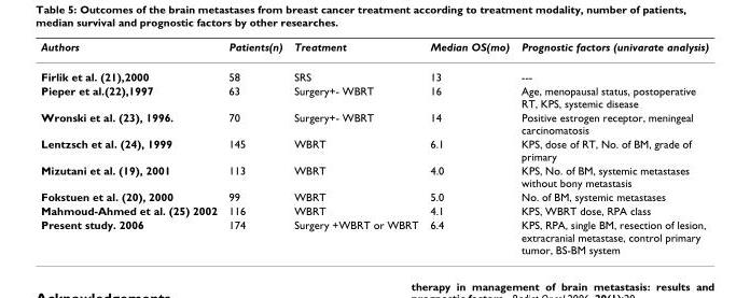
<table><thead><tr><td>Authors</td><td>Patients(n)</td><td>Treatment</td><td>Median OS(mo)</td><td>Prognostic factors (univarate analysis)</td></tr></thead><tbody><tr><td>Firlik et al. (21),2000</td><td>58</td><td>SRS</td><td>13</td><td>---</td></tr><tr><td>Pieper et al.(22),1997</td><td>63</td><td>Surgery+- WBRT</td><td>16</td><td>Age, menopausal status, postoperative RT, KPS, systemic disease</td></tr><tr><td>Wronski et al. (23), 1996.</td><td>70</td><td>Surgery+- WBRT</td><td>14</td><td>Positive estrogen receptor, meningeal carcinomatosis</td></tr><tr><td>Lentzsch et al. (24), 1999</td><td>145</td><td>WBRT</td><td>6.1</td><td>KPS, dose of RT, No. of BM, grade of primary</td></tr><tr><td>Mizutani et al. (19), 2001</td><td>113</td><td>WBRT</td><td>4.0</td><td>KPS, No. of BM, systemic metastases without bony metastasis</td></tr><tr><td>Fokstuen et al. (20), 2000</td><td>99</td><td>WBRT</td><td>5.0</td><td>No. of BM, systemic metastases</td></tr><tr><td>Mahmoud-Ahmed et al. (25) 2002</td><td>116</td><td>WBRT</td><td>4.1</td><td>KPS, WBRT dose, RPA class</td></tr><tr><td>Present study. 2006</td><td>174</td><td>Surgery +WBRT or WBRT</td><td>6.4</td><td>KPS, RPA, single BM, resection of lesion, extracranial metastase, control primary tumor, BS-BM system</td></tr></tbody></table>